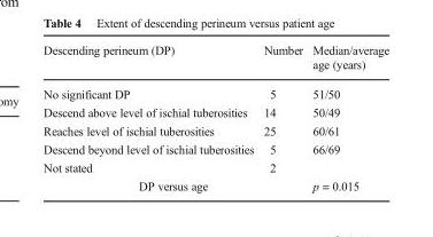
<table><thead><tr><td>Descending perineum (DP)</td><td>Number</td><td>Median/average age (years)</td></tr></thead><tbody><tr><td>No significant DP</td><td>5</td><td>51/50</td></tr><tr><td>Descend above level of ischial tuberosities</td><td>14</td><td>50/49</td></tr><tr><td>Reaches level of ischial tuberosities</td><td>25</td><td>60/61</td></tr><tr><td>Descend beyond level of ischial tuberosities</td><td>5</td><td>66/69</td></tr><tr><td>Not stated</td><td>2</td><td></td></tr><tr><td colspan="2">DP versus age</td><td>p = 0.015</td></tr></tbody></table>